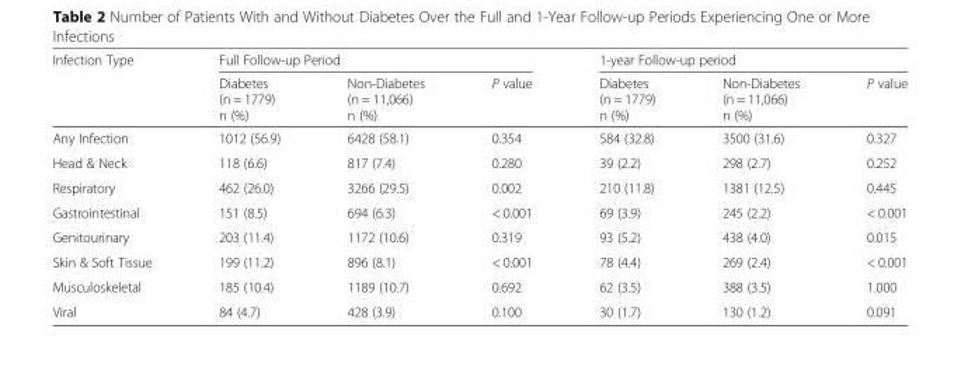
<table><thead><tr><td rowspan="2">Infection Type</td><td colspan="3">Full Follow-up Period</td><td colspan="3">1-year Follow-up period</td></tr><tr><td>Diabetes (n = 1779) n (%)</td><td>Non-Diabetes (n = 11,066) n (%)</td><td>P value</td><td>Diabetes (n = 1779) n (%)</td><td>Non-Diabetes (n = 11,066) n (%)</td><td>P value</td></tr></thead><tbody><tr><td>Any Infection</td><td>1012 (56.9)</td><td>6428 (58.1)</td><td>0.354</td><td>584 (32.8)</td><td>3500 (31.6)</td><td>0.327</td></tr><tr><td>Head &amp; Neck</td><td>118 (6.6)</td><td>817 (7.4)</td><td>0.280</td><td>39 (2.2)</td><td>298 (2.7)</td><td>0.252</td></tr><tr><td>Respiratory</td><td>462 (26.0)</td><td>3266 (29.5)</td><td>0.002</td><td>210 (11.8)</td><td>1381 (12.5)</td><td>0.445</td></tr><tr><td>Gastrointestinal</td><td>151 (8.5)</td><td>694 (6.3)</td><td>&lt; 0.001</td><td>69 (3.9)</td><td>245 (2.2)</td><td>&lt; 0.001</td></tr><tr><td>Genitourinary</td><td>203 (11.4)</td><td>1172 (10.6)</td><td>0.319</td><td>93 (5.2)</td><td>438 (4.0)</td><td>0.015</td></tr><tr><td>Skin &amp; Soft Tissue</td><td>199 (11.2)</td><td>896 (8.1)</td><td>&lt; 0.001</td><td>78 (4.4)</td><td>269 (2.4)</td><td>&lt; 0.001</td></tr><tr><td>Musculoskeletal</td><td>185 (10.4)</td><td>1189 (10.7)</td><td>0.692</td><td>62 (3.5)</td><td>388 (3.5)</td><td>1.000</td></tr><tr><td>Viral</td><td>84 (4.7)</td><td>428 (3.9)</td><td>0.100</td><td>30 (1.7)</td><td>130 (1.2)</td><td>0.091</td></tr></tbody></table>